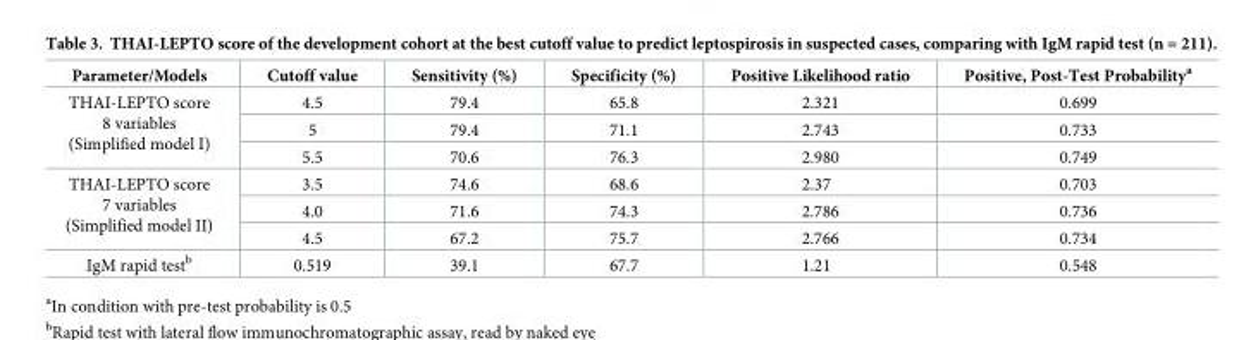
<table><thead><tr><td>Parameter/Models</td><td>Cutoff value</td><td>Sensitivity (%)</td><td>Specificity (%)</td><td>Positive Likelihood ratio</td><td>Positive, Post-Test Probability<sup>a</sup></td></tr></thead><tbody><tr><td rowspan="3">THAI-LEPTO score 8 variables (Simplified model I)</td><td>4.5</td><td>79.4</td><td>65.8</td><td>2.321</td><td>0.699</td></tr><tr><td>5</td><td>79.4</td><td>71.1</td><td>2.743</td><td>0.733</td></tr><tr><td>5.5</td><td>70.6</td><td>76.3</td><td>2.980</td><td>0.749</td></tr><tr><td rowspan="3">THAI-LEPTO score 7 variables (Simplified model II)</td><td>3.5</td><td>74.6</td><td>68.6</td><td>2.37</td><td>0.703</td></tr><tr><td>4.0</td><td>71.6</td><td>74.3</td><td>2.786</td><td>0.736</td></tr><tr><td>4.5</td><td>67.2</td><td>75.7</td><td>2.766</td><td>0.734</td></tr><tr><td>IgM rapid test<sup>b</sup></td><td>0.519</td><td>39.1</td><td>67.7</td><td>1.21</td><td>0.548</td></tr></tbody></table>